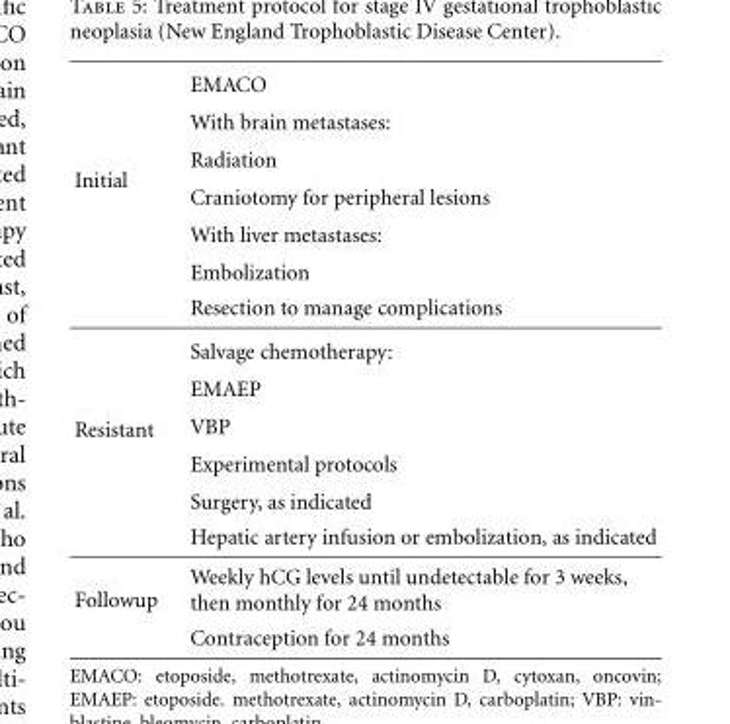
<table><tbody><tr><td rowspan="7">Initial</td><td>EMACO</td></tr><tr><td>With brain metastases:</td></tr><tr><td>Radiation</td></tr><tr><td>Craniotomy for peripheral lesions</td></tr><tr><td>With liver metastases:</td></tr><tr><td>Embolization</td></tr><tr><td>Resection to manage complications</td></tr><tr><td rowspan="6">Resistant</td><td>Salvage chemotherapy:</td></tr><tr><td>EMAEP</td></tr><tr><td>VBP</td></tr><tr><td>Experimental protocols</td></tr><tr><td>Surgery, as indicated</td></tr><tr><td>Hepatic artery infusion or embolization, as indicated</td></tr><tr><td rowspan="2">Followup</td><td>Weekly hCG levels until undetectable for 3 weeks, then monthly for 24 months</td></tr><tr><td>Contraception for 24 months</td></tr></tbody></table>